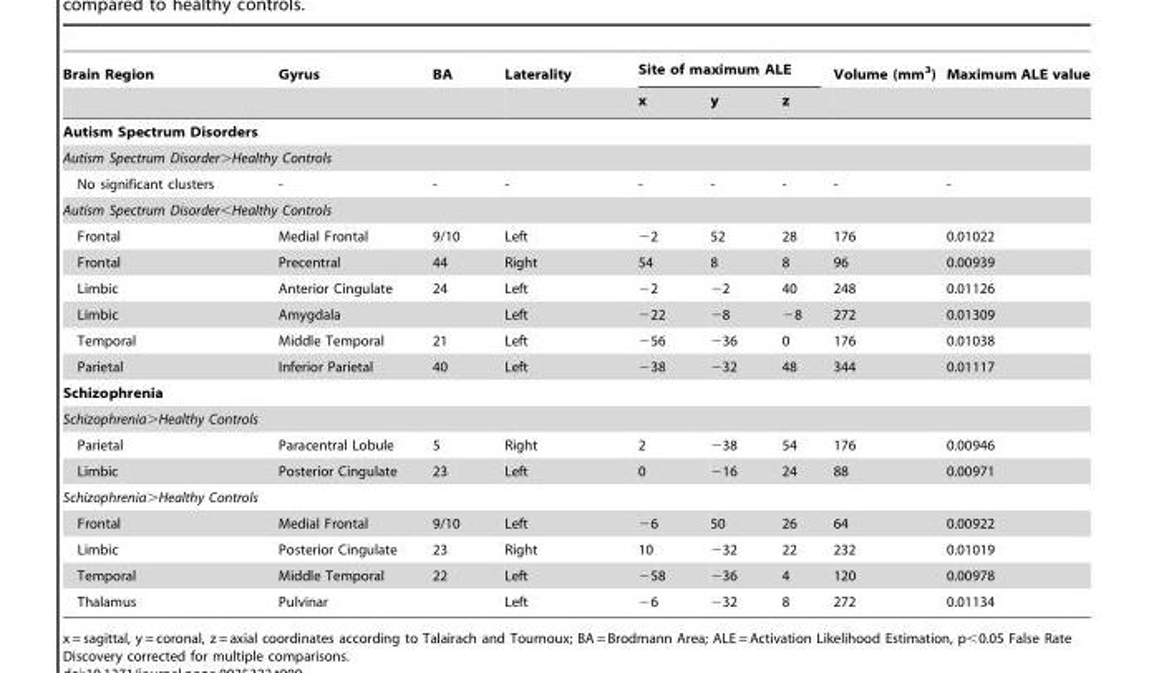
<table><thead><tr><td rowspan="2">Brain Region</td><td rowspan="2">Gyrus</td><td rowspan="2">BA</td><td rowspan="2">Laterality</td><td colspan="3">Site of maximum ALE</td><td rowspan="2">Volume (mm<sup>3</sup>)</td><td rowspan="2">Maximum ALE value</td></tr><tr><td>x</td><td>y</td><td>z</td></tr></thead><tbody><tr><td colspan="9">Autism Spectrum Disorders</td></tr><tr><td colspan="9">Autism Spectrum Disorder&gt;Healthy Controls</td></tr><tr><td>No significant clusters</td><td>-</td><td>-</td><td>-</td><td>-</td><td>-</td><td>-</td><td>-</td><td>-</td></tr><tr><td colspan="9">Autism Spectrum Disorder&lt;Healthy Controls</td></tr><tr><td>Frontal</td><td>Medial Frontal</td><td>9/10</td><td>Left</td><td>−2</td><td>52</td><td>28</td><td>176</td><td>0.01022</td></tr><tr><td>Frontal</td><td>Precentral</td><td>44</td><td>Right</td><td>54</td><td>8</td><td>8</td><td>96</td><td>0.00939</td></tr><tr><td>Limbic</td><td>Anterior Cingulate</td><td>24</td><td>Left</td><td>−2</td><td>−2</td><td>40</td><td>248</td><td>0.01126</td></tr><tr><td>Limbic</td><td>Amygdala</td><td></td><td>Left</td><td>−22</td><td>−8</td><td>−8</td><td>272</td><td>0.01309</td></tr><tr><td>Temporal</td><td>Middle Temporal</td><td>21</td><td>Left</td><td>−56</td><td>−36</td><td>0</td><td>176</td><td>0.01038</td></tr><tr><td>Parietal</td><td>Inferior Parietal</td><td>40</td><td>Left</td><td>−38</td><td>−32</td><td>48</td><td>344</td><td>0.01117</td></tr><tr><td colspan="9">Schizophrenia</td></tr><tr><td colspan="9">Schizophrenia&gt;Healthy Controls</td></tr><tr><td>Parietal</td><td>Paracentral Lobule</td><td>5</td><td>Right</td><td>2</td><td>−38</td><td>54</td><td>176</td><td>0.00946</td></tr><tr><td>Limbic</td><td>Posterior Cingulate</td><td>23</td><td>Left</td><td>0</td><td>−16</td><td>24</td><td>88</td><td>0.00971</td></tr><tr><td colspan="9">Schizophrenia&gt;Healthy Controls</td></tr><tr><td>Frontal</td><td>Medial Frontal</td><td>9/10</td><td>Left</td><td>−6</td><td>50</td><td>26</td><td>64</td><td>0.00922</td></tr><tr><td>Limbic</td><td>Posterior Cingulate</td><td>23</td><td>Right</td><td>10</td><td>−32</td><td>22</td><td>232</td><td>0.01019</td></tr><tr><td>Temporal</td><td>Middle Temporal</td><td>22</td><td>Left</td><td>−58</td><td>−36</td><td>4</td><td>120</td><td>0.00978</td></tr><tr><td>Thalamus</td><td>Pulvinar</td><td></td><td>Left</td><td>−6</td><td>−32</td><td>8</td><td>272</td><td>0.01134</td></tr></tbody></table>